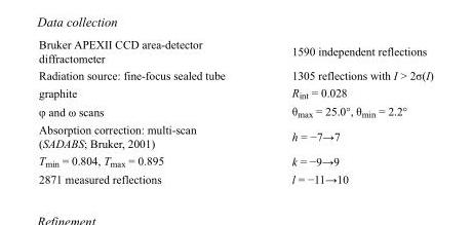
<table><tbody><tr><td>Bruker APEXII CCD area-detector diffractometer</td><td>1590 independent reflections</td></tr><tr><td>Radiation source: fine-focus sealed tube</td><td>1305 reflections with I &gt; 2σ(I)</td></tr><tr><td>graphite</td><td>R<sub>int</sub> = 0.028</td></tr><tr><td>φ and ω scans</td><td>θ<sub>max</sub> = 25.0°, θ<sub>min</sub> = 2.2°</td></tr><tr><td>Absorption correction: multi-scan (SADABS; Bruker, 2001)</td><td>h = −7→7</td></tr><tr><td>T<sub>min</sub> = 0.804, T<sub>max</sub> = 0.895</td><td>k = −9→9</td></tr><tr><td>2871 measured reflections</td><td>l = −11→10</td></tr></tbody></table>